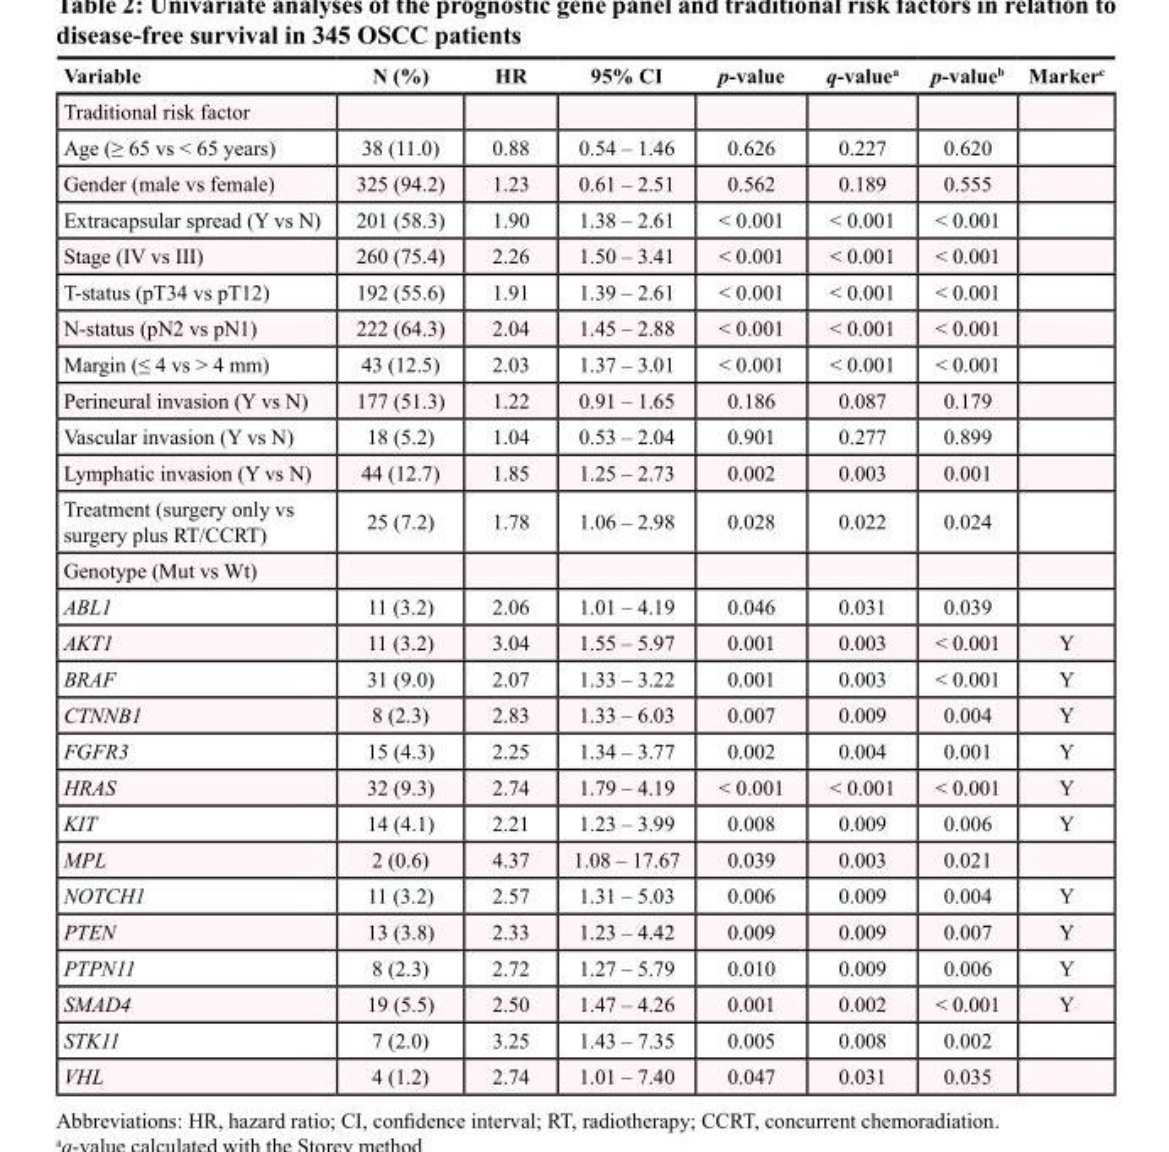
<table><thead><tr><td>Variable</td><td>N (%)</td><td>HR</td><td>95% CI</td><td>p-value</td><td>q-value<sup>a</sup></td><td>p-value<sup>b</sup></td><td>Marker<sup>c</sup></td></tr></thead><tbody><tr><td colspan="8">Traditional risk factor</td></tr><tr><td>Age (≥ 65 vs &lt; 65 years)</td><td>38 (11.0)</td><td>0.88</td><td>0.54 – 1.46</td><td>0.626</td><td>0.227</td><td>0.620</td><td></td></tr><tr><td>Gender (male vs female)</td><td>325 (94.2)</td><td>1.23</td><td>0.61 – 2.51</td><td>0.562</td><td>0.189</td><td>0.555</td><td></td></tr><tr><td>Extracapsular spread (Y vs N)</td><td>201 (58.3)</td><td>1.90</td><td>1.38 – 2.61</td><td>&lt; 0.001</td><td>&lt; 0.001</td><td>&lt; 0.001</td><td></td></tr><tr><td>Stage (IV vs III)</td><td>260 (75.4)</td><td>2.26</td><td>1.50 – 3.41</td><td>&lt; 0.001</td><td>&lt; 0.001</td><td>&lt; 0.001</td><td></td></tr><tr><td>T-status (pT34 vs pT12)</td><td>192 (55.6)</td><td>1.91</td><td>1.39 – 2.61</td><td>&lt; 0.001</td><td>&lt; 0.001</td><td>&lt; 0.001</td><td></td></tr><tr><td>N-status (pN2 vs pN1)</td><td>222 (64.3)</td><td>2.04</td><td>1.45 – 2.88</td><td>&lt; 0.001</td><td>&lt; 0.001</td><td>&lt; 0.001</td><td></td></tr><tr><td>Margin (≤ 4 vs &gt; 4 mm)</td><td>43 (12.5)</td><td>2.03</td><td>1.37 – 3.01</td><td>&lt; 0.001</td><td>&lt; 0.001</td><td>&lt; 0.001</td><td></td></tr><tr><td>Perineural invasion (Y vs N)</td><td>177 (51.3)</td><td>1.22</td><td>0.91 – 1.65</td><td>0.186</td><td>0.087</td><td>0.179</td><td></td></tr><tr><td>Vascular invasion (Y vs N)</td><td>18 (5.2)</td><td>1.04</td><td>0.53 – 2.04</td><td>0.901</td><td>0.277</td><td>0.899</td><td></td></tr><tr><td>Lymphatic invasion (Y vs N)</td><td>44 (12.7)</td><td>1.85</td><td>1.25 – 2.73</td><td>0.002</td><td>0.003</td><td>0.001</td><td></td></tr><tr><td>Treatment (surgery only vs surgery plus RT/CCRT)</td><td>25 (7.2)</td><td>1.78</td><td>1.06 – 2.98</td><td>0.028</td><td>0.022</td><td>0.024</td><td></td></tr><tr><td colspan="8">Genotype (Mut vs Wt)</td></tr><tr><td>ABL1</td><td>11 (3.2)</td><td>2.06</td><td>1.01 – 4.19</td><td>0.046</td><td>0.031</td><td>0.039</td><td></td></tr><tr><td>AKT1</td><td>11 (3.2)</td><td>3.04</td><td>1.55 – 5.97</td><td>0.001</td><td>0.003</td><td>&lt; 0.001</td><td>Y</td></tr><tr><td>BRAF</td><td>31 (9.0)</td><td>2.07</td><td>1.33 – 3.22</td><td>0.001</td><td>0.003</td><td>&lt; 0.001</td><td>Y</td></tr><tr><td>CTNNB1</td><td>8 (2.3)</td><td>2.83</td><td>1.33 – 6.03</td><td>0.007</td><td>0.009</td><td>0.004</td><td>Y</td></tr><tr><td>FGFR3</td><td>15 (4.3)</td><td>2.25</td><td>1.34 – 3.77</td><td>0.002</td><td>0.004</td><td>0.001</td><td>Y</td></tr><tr><td>HRAS</td><td>32 (9.3)</td><td>2.74</td><td>1.79 – 4.19</td><td>&lt; 0.001</td><td>&lt; 0.001</td><td>&lt; 0.001</td><td>Y</td></tr><tr><td>KIT</td><td>14 (4.1)</td><td>2.21</td><td>1.23 – 3.99</td><td>0.008</td><td>0.009</td><td>0.006</td><td>Y</td></tr><tr><td>MPL</td><td>2 (0.6)</td><td>4.37</td><td>1.08 – 17.67</td><td>0.039</td><td>0.003</td><td>0.021</td><td></td></tr><tr><td>NOTCH1</td><td>11 (3.2)</td><td>2.57</td><td>1.31 – 5.03</td><td>0.006</td><td>0.009</td><td>0.004</td><td>Y</td></tr><tr><td>PTEN</td><td>13 (3.8)</td><td>2.33</td><td>1.23 – 4.42</td><td>0.009</td><td>0.009</td><td>0.007</td><td>Y</td></tr><tr><td>PTPN11</td><td>8 (2.3)</td><td>2.72</td><td>1.27 – 5.79</td><td>0.010</td><td>0.009</td><td>0.006</td><td>Y</td></tr><tr><td>SMAD4</td><td>19 (5.5)</td><td>2.50</td><td>1.47 – 4.26</td><td>0.001</td><td>0.002</td><td>&lt; 0.001</td><td>Y</td></tr><tr><td>STK11</td><td>7 (2.0)</td><td>3.25</td><td>1.43 – 7.35</td><td>0.005</td><td>0.008</td><td>0.002</td><td></td></tr><tr><td>VHL</td><td>4 (1.2)</td><td>2.74</td><td>1.01 – 7.40</td><td>0.047</td><td>0.031</td><td>0.035</td><td></td></tr></tbody></table>